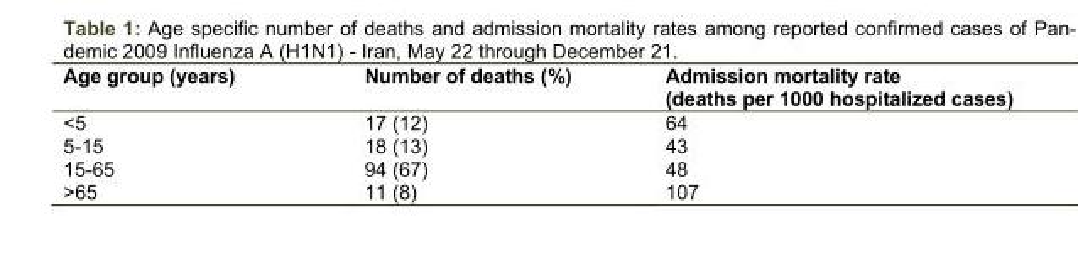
<table><thead><tr><td>Age group (years)</td><td>Number of deaths (%)</td><td>Admission mortality rate (deaths per 1000 hospitalized cases)</td></tr></thead><tbody><tr><td>&lt;5</td><td>17 (12)</td><td>64</td></tr><tr><td>5-15</td><td>18 (13)</td><td>43</td></tr><tr><td>15-65</td><td>94 (67)</td><td>48</td></tr><tr><td>&gt;65</td><td>11 (8)</td><td>107</td></tr></tbody></table>